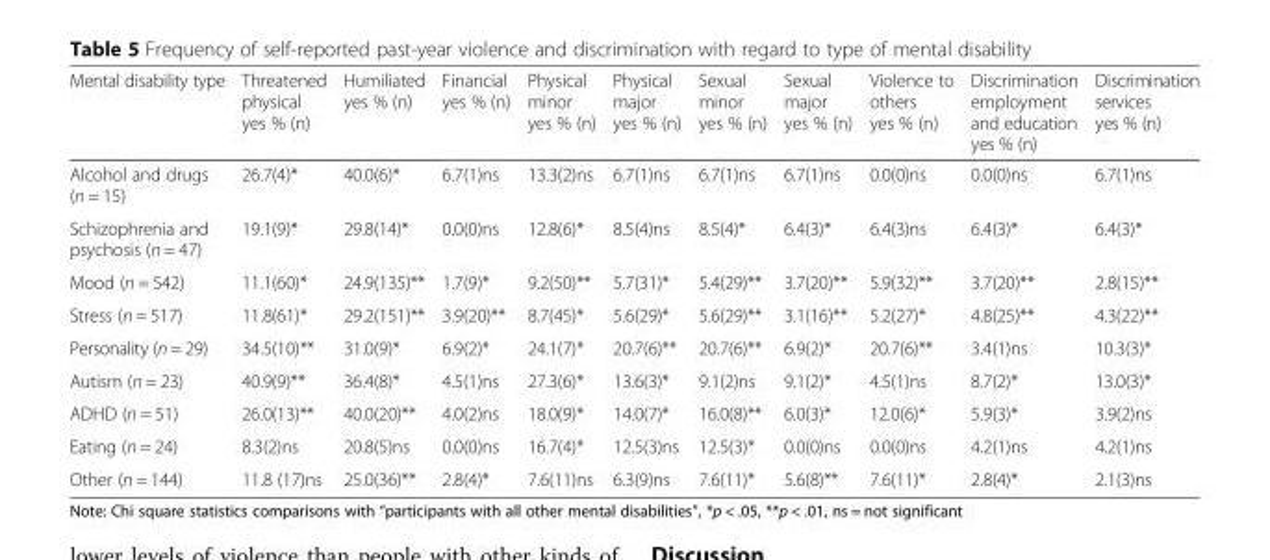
<table><thead><tr><td>Mental disability type</td><td>Threatened physical yes % (n)</td><td>Humiliated yes % (n)</td><td>Financial yes % (n)</td><td>Physical minor yes % (n)</td><td>Physical major yes % (n)</td><td>Sexual minor yes % (n)</td><td>Sexual major yes % (n)</td><td>Violence to others yes % (n)</td><td>Discrimination employment and education yes % (n)</td><td>Discrimination services yes % (n)</td></tr></thead><tbody><tr><td>Alcohol and drugs (n = 15)</td><td>26.7(4)*</td><td>40.0(6)*</td><td>6.7(1)ns</td><td>13.3(2)ns</td><td>6.7(1)ns</td><td>6.7(1)ns</td><td>6.7(1)ns</td><td>0.0(0)ns</td><td>0.0(0)ns</td><td>6.7(1)ns</td></tr><tr><td>Schizophrenia and psychosis (n = 47)</td><td>19.1(9)*</td><td>29.8(14)*</td><td>0.0(0)ns</td><td>12.8(6)*</td><td>8.5(4)ns</td><td>8.5(4)*</td><td>6.4(3)*</td><td>6.4(3)ns</td><td>6.4(3)*</td><td>6.4(3)*</td></tr><tr><td>Mood (n = 542)</td><td>11.1(60)*</td><td>24.9(135)**</td><td>1.7(9)*</td><td>9.2(50)**</td><td>5.7(31)*</td><td>5.4(29)**</td><td>3.7(20)**</td><td>5.9(32)**</td><td>3.7(20)**</td><td>2.8(15)**</td></tr><tr><td>Stress (n = 517)</td><td>11.8(61)*</td><td>29.2(151)**</td><td>3.9(20)**</td><td>8.7(45)*</td><td>5.6(29)*</td><td>5.6(29)**</td><td>3.1(16)**</td><td>5.2(27)*</td><td>4.8(25)**</td><td>4.3(22)**</td></tr><tr><td>Personality (n = 29)</td><td>34.5(10)**</td><td>31.0(9)*</td><td>6.9(2)*</td><td>24.1(7)*</td><td>20.7(6)**</td><td>20.7(6)**</td><td>6.9(2)*</td><td>20.7(6)**</td><td>3.4(1)ns</td><td>10.3(3)*</td></tr><tr><td>Autism (n = 23)</td><td>40.9(9)**</td><td>36.4(8)*</td><td>4.5(1)ns</td><td>27.3(6)*</td><td>13.6(3)*</td><td>9.1(2)ns</td><td>9.1(2)*</td><td>4.5(1)ns</td><td>8.7(2)*</td><td>13.0(3)*</td></tr><tr><td>ADHD (n = 51)</td><td>26.0(13)**</td><td>40.0(20)**</td><td>4.0(2)ns</td><td>18.0(9)*</td><td>14.0(7)*</td><td>16.0(8)**</td><td>6.0(3)*</td><td>12.0(6)*</td><td>5.9(3)*</td><td>3.9(2)ns</td></tr><tr><td>Eating (n = 24)</td><td>8.3(2)ns</td><td>20.8(5)ns</td><td>0.0(0)ns</td><td>16.7(4)*</td><td>12.5(3)ns</td><td>12.5(3)*</td><td>0.0(0)ns</td><td>0.0(0)ns</td><td>4.2(1)ns</td><td>4.2(1)ns</td></tr><tr><td>Other (n = 144)</td><td>11.8 (17)ns</td><td>25.0(36)**</td><td>2.8(4)*</td><td>7.6(11)ns</td><td>6.3(9)ns</td><td>7.6(11)*</td><td>5.6(8)**</td><td>7.6(11)*</td><td>2.8(4)*</td><td>2.1(3)ns</td></tr></tbody></table>